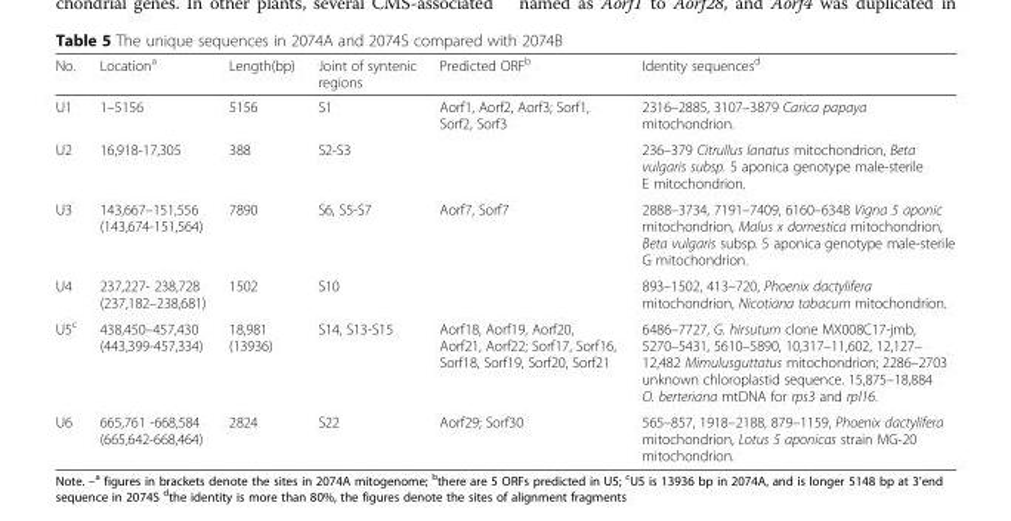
<table><thead><tr><td>No.</td><td>Location<sup>a</sup></td><td>Length(bp)</td><td>Joint of syntenic regions</td><td>Predicted ORF<sup>b</sup></td><td>Identity sequences<sup>d</sup></td></tr></thead><tbody><tr><td>U1</td><td>1–5156</td><td>5156</td><td>S1</td><td>Aorf1, Aorf2, Aorf3; Sorf1, Sorf2, Sorf3</td><td>2316–2885, 3107–3879 Carica papaya mitochondrion.</td></tr><tr><td>U2</td><td>16,918-17,305</td><td>388</td><td>S2-S3</td><td></td><td>236–379 Citrullus lanatus mitochondrion, Beta vulgaris subsp. 5 aponica genotype male-sterile E mitochondrion.</td></tr><tr><td>U3</td><td>143,667–151,556 (143,674-151,564)</td><td>7890</td><td>S6, S5-S7</td><td>Aorf7, Sorf7</td><td>2888–3734, 7191–7409, 6160–6348 Vigna 5 aponic mitochondrion, Malus x domestica mitochondrion, Beta vulgaris subsp. 5 aponica genotype male-sterile G mitochondrion.</td></tr><tr><td>U4</td><td>237,227- 238,728 (237,182–238,681)</td><td>1502</td><td>S10</td><td></td><td>893–1502, 413–720, Phoenix dactylifera mitochondrion, Nicotiana tabacum mitochondrion.</td></tr><tr><td>U5<sup>c</sup></td><td>438,450–457,430 (443,399-457,334)</td><td>18,981 (13936)</td><td>S14, S13-S15</td><td>Aorf18, Aorf19, Aorf20, Aorf21, Aorf22; Sorf17, Sorf16, Sorf18, Sorf19, Sorf20, Sorf21</td><td>6486–7727, G. hirsutum clone MX008C17-jmb, 5270–5431, 5610–5890, 10,317–11,602, 12,127– 12,482 Mimulusguttatus mitochondrion; 2286–2703 unknown chloroplastid sequence. 15,875–18,884 O. berteriana mtDNA for rps3 and rpl16.</td></tr><tr><td>U6</td><td>665,761 -668,584 (665,642-668,464)</td><td>2824</td><td>S22</td><td>Aorf29; Sorf30</td><td>565–857, 1918–2188, 879–1159, Phoenix dactylifera mitochondrion, Lotus 5 aponicas strain MG-20 mitochondrion.</td></tr></tbody></table>